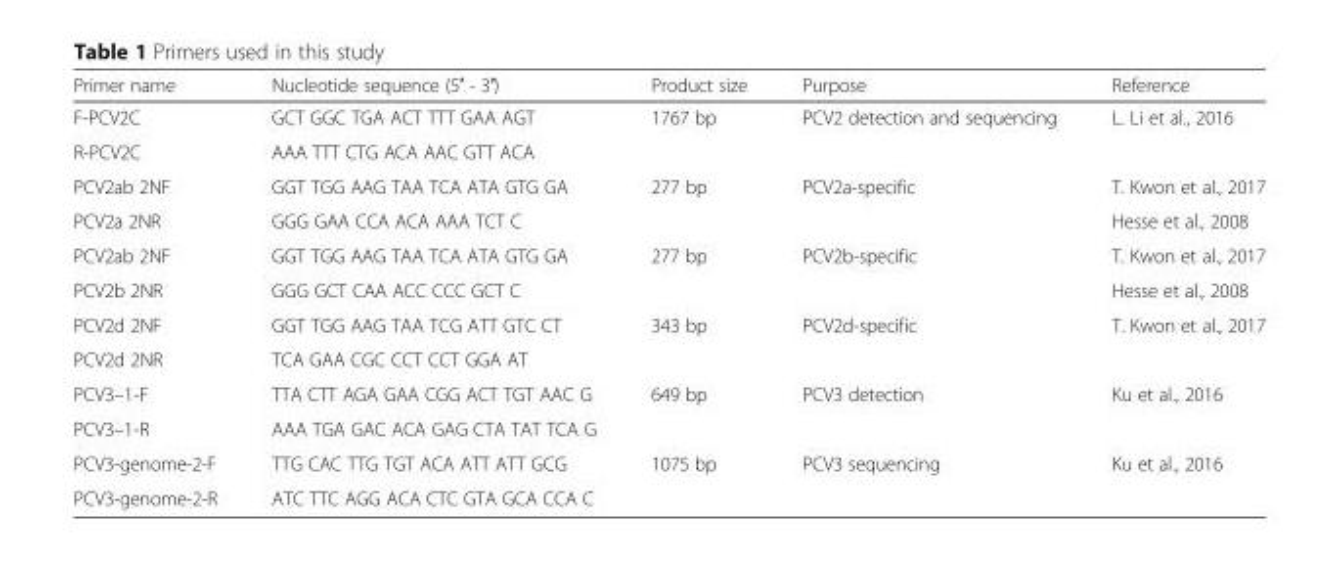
<table><thead><tr><td>Primer name</td><td>Nucleotide sequence (5′ - 3′)</td><td>Product size</td><td>Purpose</td><td>Reference</td></tr></thead><tbody><tr><td>F-PCV2C</td><td>GCT GGC TGA ACT TTT GAA AGT</td><td>1767 bp</td><td rowspan="2">PCV2 detection and sequencing</td><td>L. Li et al., 2016</td></tr><tr><td>R-PCV2C</td><td>AAA TTT CTG ACA AAC GTT ACA</td><td></td><td></td></tr><tr><td>PCV2ab 2NF</td><td>GGT TGG AAG TAA TCA ATA GTG GA</td><td>277 bp</td><td>PCV2a-specific</td><td>T. Kwon et al., 2017</td></tr><tr><td>PCV2a 2NR</td><td>GGG GAA CCA ACA AAA TCT C</td><td></td><td></td><td>Hesse et al., 2008</td></tr><tr><td>PCV2ab 2NF</td><td>GGT TGG AAG TAA TCA ATA GTG GA</td><td>277 bp</td><td>PCV2b-specific</td><td>T. Kwon et al., 2017</td></tr><tr><td>PCV2b 2NR</td><td>GGG GCT CAA ACC CCC GCT C</td><td></td><td></td><td>Hesse et al., 2008</td></tr><tr><td>PCV2d 2NF</td><td>GGT TGG AAG TAA TCG ATT GTC CT</td><td>343 bp</td><td>PCV2d-specific</td><td>T. Kwon et al., 2017</td></tr><tr><td>PCV2d 2NR</td><td>TCA GAA CGC CCT CCT GGA AT</td><td></td><td></td><td></td></tr><tr><td>PCV3–1-F</td><td>TTA CTT AGA GAA CGG ACT TGT AAC G</td><td>649 bp</td><td>PCV3 detection</td><td>Ku et al., 2016</td></tr><tr><td>PCV3–1-R</td><td>AAA TGA GAC ACA GAG CTA TAT TCA G</td><td></td><td></td><td></td></tr><tr><td>PCV3-genome-2-F</td><td>TTG CAC TTG TGT ACA ATT ATT GCG</td><td>1075 bp</td><td>PCV3 sequencing</td><td>Ku et al., 2016</td></tr><tr><td>PCV3-genome-2-R</td><td>ATC TTC AGG ACA CTC GTA GCA CCA C</td><td></td><td></td><td></td></tr></tbody></table>